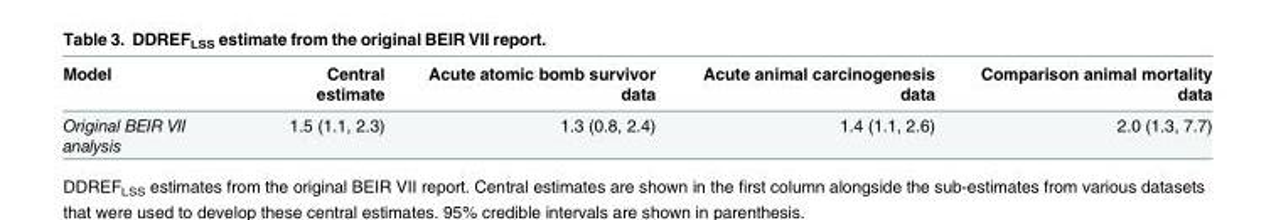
<table><thead><tr><td>Model</td><td>Central estimate</td><td>Acute atomic bomb survivor data</td><td>Acute animal carcinogenesis data</td><td>Comparison animal mortality data</td></tr></thead><tbody><tr><td>Original BEIR VII analysis</td><td>1.5 (1.1, 2.3)</td><td>1.3 (0.8, 2.4)</td><td>1.4 (1.1, 2.6)</td><td>2.0 (1.3, 7.7)</td></tr></tbody></table>